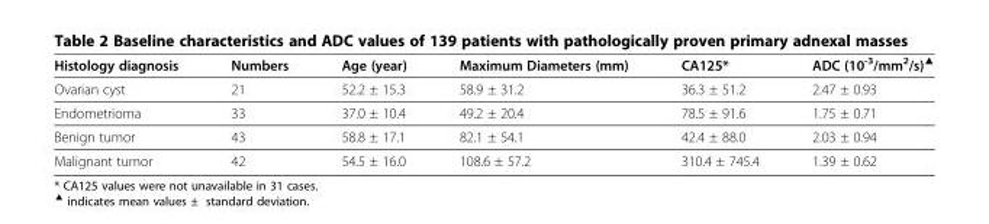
<table><thead><tr><td>Histology diagnosis</td><td>Numbers</td><td>Age (year)</td><td>Maximum Diameters (mm)</td><td>CA125*</td><td>ADC (10<sup>-3</sup>/mm<sup>2</sup>/s)<sup>▲</sup></td></tr></thead><tbody><tr><td>Ovarian cyst</td><td>21</td><td>52.2 ± 15.3</td><td>58.9 ± 31.2</td><td>36.3 ± 51.2</td><td>2.47 ± 0.93</td></tr><tr><td>Endometrioma</td><td>33</td><td>37.0 ± 10.4</td><td>49.2 ± 20.4</td><td>78.5 ± 91.6</td><td>1.75 ± 0.71</td></tr><tr><td>Benign tumor</td><td>43</td><td>58.8 ± 17.1</td><td>82.1 ± 54.1</td><td>42.4 ± 88.0</td><td>2.03 ± 0.94</td></tr><tr><td>Malignant tumor</td><td>42</td><td>54.5 ± 16.0</td><td>108.6 ± 57.2</td><td>310.4 ± 745.4</td><td>1.39 ± 0.62</td></tr></tbody></table>